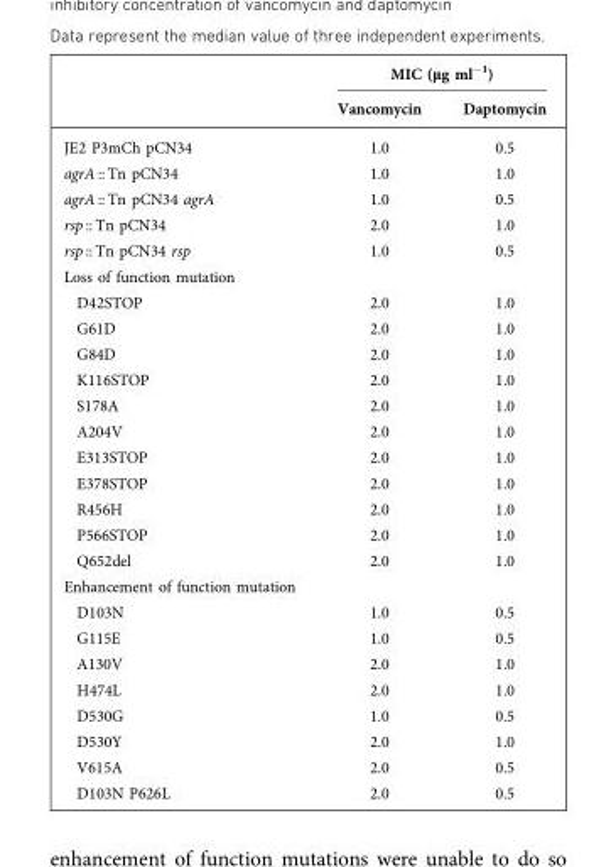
<table><thead><tr><td rowspan="2"></td><td colspan="2">MIC (μg ml<sup>−1</sup>)</td></tr><tr><td>Vancomycin</td><td>Daptomycin</td></tr></thead><tbody><tr><td>JE2 P3mCh pCN34</td><td>1.0</td><td>0.5</td></tr><tr><td>agrA :: Tn pCN34</td><td>1.0</td><td>1.0</td></tr><tr><td>agrA :: Tn pCN34 agrA</td><td>1.0</td><td>0.5</td></tr><tr><td>rsp :: Tn pCN34</td><td>2.0</td><td>1.0</td></tr><tr><td>rsp :: Tn pCN34 rsp</td><td>1.0</td><td>0.5</td></tr><tr><td colspan="3">Loss of function mutation</td></tr><tr><td>D42STOP</td><td>2.0</td><td>1.0</td></tr><tr><td>G61D</td><td>2.0</td><td>1.0</td></tr><tr><td>G84D</td><td>2.0</td><td>1.0</td></tr><tr><td>K116STOP</td><td>2.0</td><td>1.0</td></tr><tr><td>S178A</td><td>2.0</td><td>1.0</td></tr><tr><td>A204V</td><td>2.0</td><td>1.0</td></tr><tr><td>E313STOP</td><td>2.0</td><td>1.0</td></tr><tr><td>E378STOP</td><td>2.0</td><td>1.0</td></tr><tr><td>R456H</td><td>2.0</td><td>1.0</td></tr><tr><td>P566STOP</td><td>2.0</td><td>1.0</td></tr><tr><td>Q652del</td><td>2.0</td><td>1.0</td></tr><tr><td colspan="3">Enhancement of function mutation</td></tr><tr><td>D103N</td><td>1.0</td><td>0.5</td></tr><tr><td>G115E</td><td>1.0</td><td>0.5</td></tr><tr><td>A130V</td><td>2.0</td><td>1.0</td></tr><tr><td>H474L</td><td>2.0</td><td>1.0</td></tr><tr><td>D530G</td><td>1.0</td><td>0.5</td></tr><tr><td>D530Y</td><td>2.0</td><td>1.0</td></tr><tr><td>V615A</td><td>2.0</td><td>0.5</td></tr><tr><td>D103N P626L</td><td>2.0</td><td>0.5</td></tr></tbody></table>